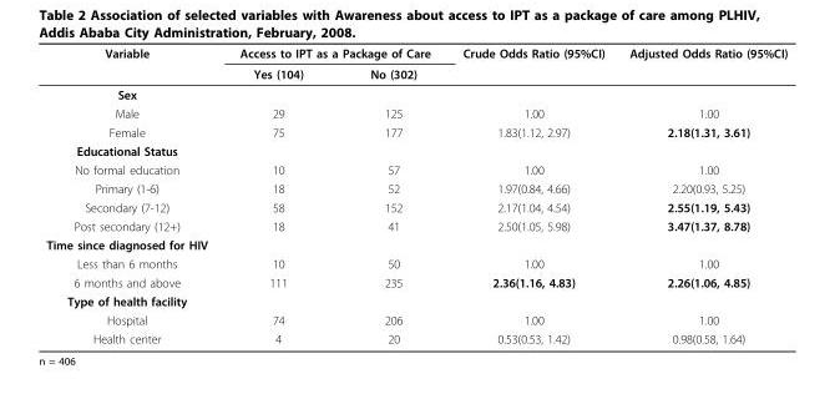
<table><thead><tr><td rowspan="2">Variable</td><td colspan="2">Access to IPT as a Package of Care</td><td rowspan="2">Crude Odds Ratio (95%CI)</td><td rowspan="2">Adjusted Odds Ratio (95%CI)</td></tr><tr><td>Yes (104)</td><td>No (302)</td></tr></thead><tbody><tr><td colspan="5">Sex</td></tr><tr><td>Male</td><td>29</td><td>125</td><td>1.00</td><td>1.00</td></tr><tr><td>Female</td><td>75</td><td>177</td><td>1.83(1.12, 2.97)</td><td>2.18(1.31, 3.61)</td></tr><tr><td colspan="5">Educational Status</td></tr><tr><td>No formal education</td><td>10</td><td>57</td><td>1.00</td><td>1.00</td></tr><tr><td>Primary (1-6)</td><td>18</td><td>52</td><td>1.97(0.84, 4.66)</td><td>2.20(0.93, 5.25)</td></tr><tr><td>Secondary (7-12)</td><td>58</td><td>152</td><td>2.17(1.04, 4.54)</td><td>2.55(1.19, 5.43)</td></tr><tr><td>Post secondary (12+)</td><td>18</td><td>41</td><td>2.50(1.05, 5.98)</td><td>3.47(1.37, 8.78)</td></tr><tr><td colspan="5">Time since diagnosed for HIV</td></tr><tr><td>Less than 6 months</td><td>10</td><td>50</td><td>1.00</td><td>1.00</td></tr><tr><td>6 months and above</td><td>111</td><td>235</td><td>2.36(1.16, 4.83)</td><td>2.26(1.06, 4.85)</td></tr><tr><td colspan="5">Type of health facility</td></tr><tr><td>Hospital</td><td>74</td><td>206</td><td>1.00</td><td>1.00</td></tr><tr><td>Health center</td><td>4</td><td>20</td><td>0.53(0.53, 1.42)</td><td>0.98(0.58, 1.64)</td></tr></tbody></table>